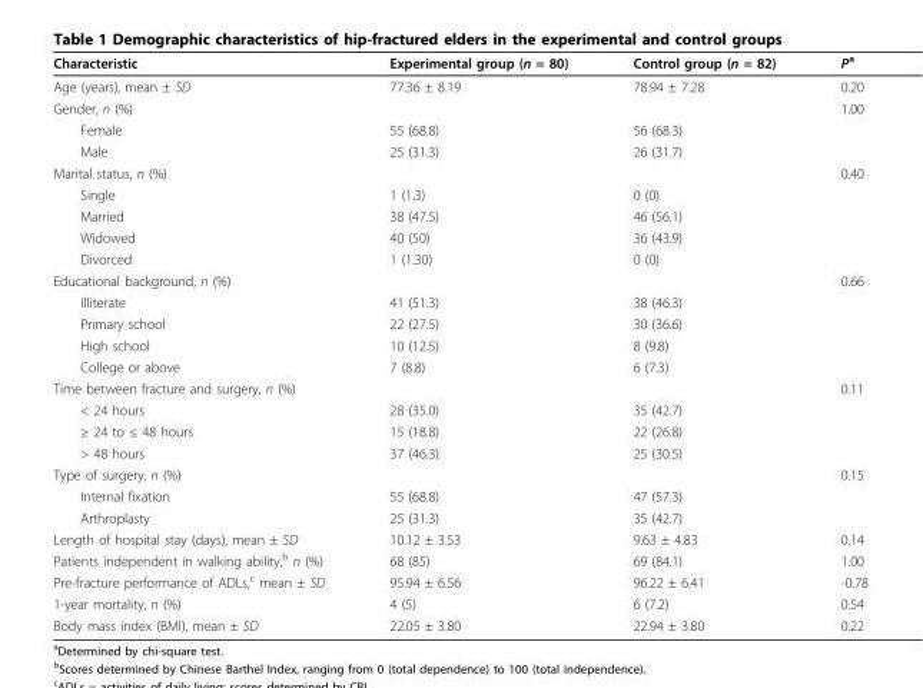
<table><thead><tr><td>Characteristic</td><td>Experimental group (n = 80)</td><td>Control group (n = 82)</td><td>P<sup>a</sup></td></tr></thead><tbody><tr><td>Age (years), mean ± SD</td><td>77.36 ± 8.19</td><td>78.94 ± 7.28</td><td>0.20</td></tr><tr><td>Gender, n (%)</td><td></td><td></td><td>1.00</td></tr><tr><td>Female</td><td>55 (68.8)</td><td>56 (68.3)</td><td></td></tr><tr><td>Male</td><td>25 (31.3)</td><td>26 (31.7)</td><td></td></tr><tr><td>Marital status, n (%)</td><td></td><td></td><td>0.40</td></tr><tr><td>Single</td><td>1 (1.3)</td><td>0 (0)</td><td></td></tr><tr><td>Married</td><td>38 (47.5)</td><td>46 (56.1)</td><td></td></tr><tr><td>Widowed</td><td>40 (50)</td><td>36 (43.9)</td><td></td></tr><tr><td>Divorced</td><td>1 (1.30)</td><td>0 (0)</td><td></td></tr><tr><td>Educational background, n (%)</td><td></td><td></td><td>0.66</td></tr><tr><td>Illiterate</td><td>41 (51.3)</td><td>38 (46.3)</td><td></td></tr><tr><td>Primary school</td><td>22 (27.5)</td><td>30 (36.6)</td><td></td></tr><tr><td>High school</td><td>10 (12.5)</td><td>8 (9.8)</td><td></td></tr><tr><td>College or above</td><td>7 (8.8)</td><td>6 (7.3)</td><td></td></tr><tr><td>Time between fracture and surgery, n (%)</td><td></td><td></td><td>0.11</td></tr><tr><td>&lt; 24 hours</td><td>28 (35.0)</td><td>35 (42.7)</td><td></td></tr><tr><td>≥ 24 to ≤ 48 hours</td><td>15 (18.8)</td><td>22 (26.8)</td><td></td></tr><tr><td>&gt; 48 hours</td><td>37 (46.3)</td><td>25 (30.5)</td><td></td></tr><tr><td>Type of surgery, n (%)</td><td></td><td></td><td>0.15</td></tr><tr><td>Internal fixation</td><td>55 (68.8)</td><td>47 (57.3)</td><td></td></tr><tr><td>Arthroplasty</td><td>25 (31.3)</td><td>35 (42.7)</td><td></td></tr><tr><td>Length of hospital stay (days), mean ± SD</td><td>10.12 ± 3.53</td><td>9.63 ± 4.83</td><td>0.14</td></tr><tr><td>Patients independent in walking ability,<sup>b</sup> n (%)</td><td>68 (85)</td><td>69 (84.1)</td><td>1.00</td></tr><tr><td>Pre-fracture performance of ADLs,<sup>c</sup> mean ± SD</td><td>95.94 ± 6.56</td><td>96.22 ± 6.41</td><td>-0.78</td></tr><tr><td>1-year mortality, n (%)</td><td>4 (5)</td><td>6 (7.2)</td><td>0.54</td></tr><tr><td>Body mass index (BMI), mean ± SD</td><td>22.05 ± 3.80</td><td>22.94 ± 3.80</td><td>0.22</td></tr></tbody></table>